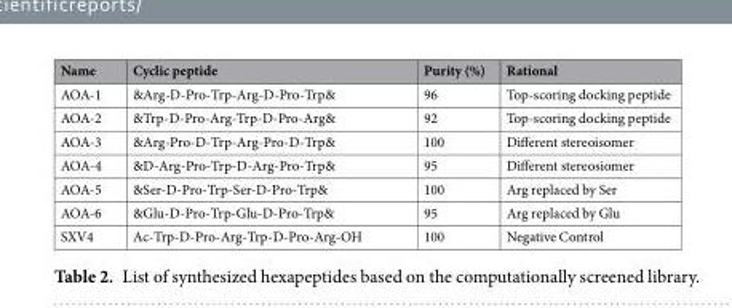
<table><thead><tr><td>Name</td><td>Cyclic peptide</td><td>Purity (%)</td><td>Rational</td></tr></thead><tbody><tr><td>AOA-1</td><td>&amp;Arg-D-Pro-Trp-Arg-D-Pro-Trp&amp;</td><td>96</td><td>Top-scoring docking peptide</td></tr><tr><td>AOA-2</td><td>&amp;Trp-D-Pro-Arg-Trp-D-Pro-Arg&amp;</td><td>92</td><td>Top-scoring docking peptide</td></tr><tr><td>AOA-3</td><td>&amp;Arg-Pro-D-Trp-Arg-Pro-D-Trp&amp;</td><td>100</td><td>Different stereoisomer</td></tr><tr><td>AOA-4</td><td>&amp;D-Arg-Pro-Trp-D-Arg-Pro-Trp&amp;</td><td>95</td><td>Different stereosiomer</td></tr><tr><td>AOA-5</td><td>&amp;Ser-D-Pro-Trp-Ser-D-Pro-Trp&amp;</td><td>100</td><td>Arg replaced by Ser</td></tr><tr><td>AOA-6</td><td>&amp;Glu-D-Pro-Trp-Glu-D-Pro-Trp&amp;</td><td>95</td><td>Arg replaced by Glu</td></tr><tr><td>SXV4</td><td>Ac-Trp-D-Pro-Arg-Trp-D-Pro-Arg-OH</td><td>100</td><td>Negative Control</td></tr></tbody></table>